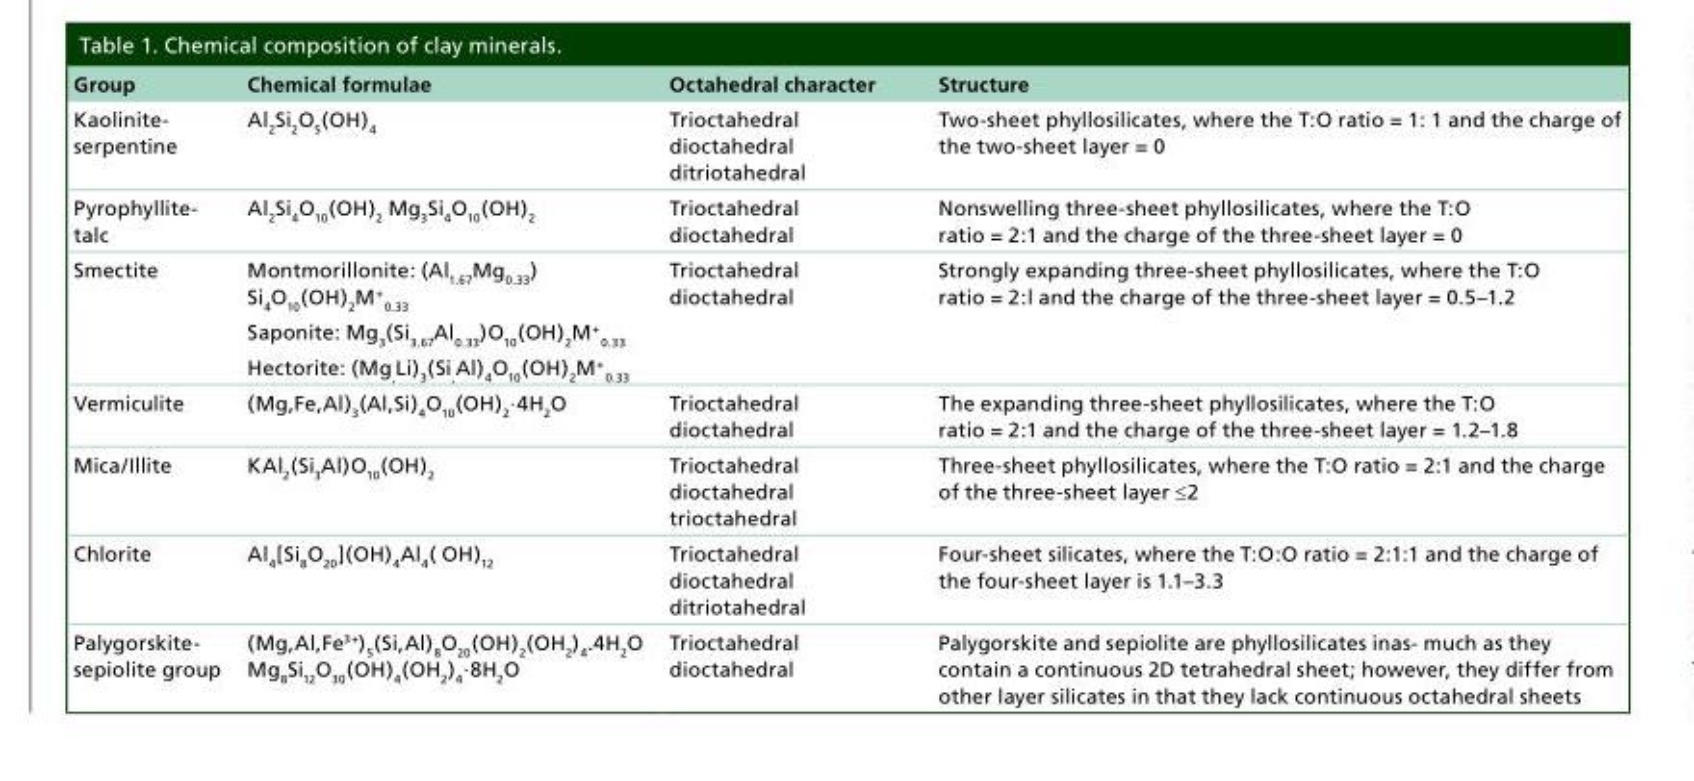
<table><thead><tr><td>Group</td><td>Chemical formulae</td><td>Octahedral character</td><td>Structure</td></tr></thead><tbody><tr><td>Kaolinite- serpentine</td><td>Al<sub>2</sub>Si<sub>2</sub>O<sub>5</sub>(OH)<sub>4</sub></td><td>Trioctahedral dioctahedral ditriotahedral</td><td>Two-sheet phyllosilicates, where the T:O ratio = 1: 1 and the charge of the two-sheet layer = 0</td></tr><tr><td>Pyrophyllite- talc</td><td>Al<sub>2</sub>Si<sub>4</sub>O<sub>10</sub>(OH)<sub>2</sub> Mg<sub>3</sub>Si<sub>4</sub>O<sub>10</sub>(OH)<sub>2</sub></td><td>Trioctahedral dioctahedral</td><td>Nonswelling three-sheet phyllosilicates, where the T:O ratio = 2:1 and the charge of the three-sheet layer = 0</td></tr><tr><td rowspan="3">Smectite</td><td>Montmorillonite: (Al<sub>1.67</sub>Mg<sub>0.33</sub>) Si<sub>4</sub>O<sub>10</sub>(OH)<sub>2</sub>M<sup>+</sup> <sub>0.33</sub></td><td>Trioctahedral dioctahedral</td><td>Strongly expanding three-sheet phyllosilicates, where the T:O ratio = 2:l and the charge of the three-sheet layer = 0.5–1.2</td></tr><tr><td>Saponite: Mg<sub>3</sub>(Si<sub>3.67</sub>Al<sub>0.33</sub>)O<sub>10</sub>(OH)<sub>2</sub>M<sup>+</sup> <sub>0.33</sub></td><td></td><td></td></tr><tr><td>Hectorite: (Mg,Li)<sub>3</sub>(Si,Al)<sub>4</sub>O<sub>10</sub>(OH)<sub>2</sub>M<sup>+</sup> <sub>0.33</sub></td><td></td><td></td></tr><tr><td>Vermiculite</td><td>(Mg,Fe,Al)<sub>3</sub>(Al,Si)<sub>4</sub>O<sub>10</sub>(OH)<sub>2</sub>·4H<sub>2</sub>O</td><td>Trioctahedral dioctahedral</td><td>The expanding three-sheet phyllosilicates, where the T:O ratio = 2:1 and the charge of the three-sheet layer = 1.2–1.8</td></tr><tr><td>Mica/Illite</td><td>KAl<sub>2</sub>(Si<sub>3</sub>Al)O<sub>10</sub>(OH)<sub>2</sub></td><td>Trioctahedral dioctahedral trioctahedral</td><td>Three-sheet phyllosilicates, where the T:O ratio = 2:1 and the charge of the three-sheet layer ≤2</td></tr><tr><td>Chlorite</td><td>Al<sub>4</sub>[Si<sub>8</sub>O<sub>20</sub>](OH)<sub>4</sub>Al<sub>4</sub>( OH)<sub>12</sub></td><td>Trioctahedral dioctahedral ditriotahedral</td><td>Four-sheet silicates, where the T:O:O ratio = 2:1:1 and the charge of the four-sheet layer is 1.1–3.3</td></tr><tr><td>Palygorskite- sepiolite group</td><td>(Mg,Al,Fe<sup>3+</sup>)<sub>5</sub>(Si,Al)<sub>8</sub>O<sub>20</sub>(OH)<sub>2</sub>(OH<sub>2</sub>)<sub>4</sub>.4H<sub>2</sub>O Mg<sub>8</sub>Si<sub>12</sub>O<sub>30</sub>(OH)<sub>4</sub>(OH<sub>2</sub>)<sub>4</sub>·8H<sub>2</sub>O</td><td>Trioctahedral dioctahedral</td><td>Palygorskite and sepiolite are phyllosilicates inas- much as they contain a continuous 2D tetrahedral sheet; however, they differ from other layer silicates in that they lack continuous octahedral sheets</td></tr></tbody></table>